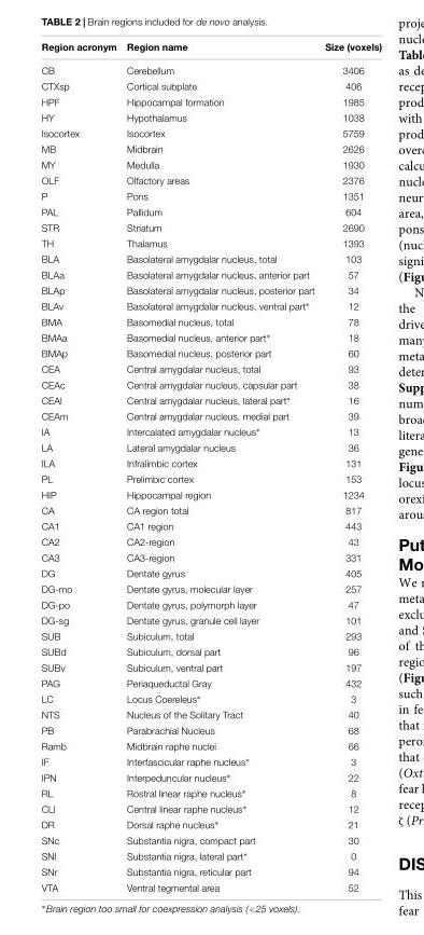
<table><thead><tr><td>Region acronym</td><td>Region name</td><td>Size (voxels)</td></tr></thead><tbody><tr><td>CB</td><td>Cerebellum</td><td>3406</td></tr><tr><td>CTXsp</td><td>Cortical subplate</td><td>406</td></tr><tr><td>HPF</td><td>Hippocampal formation</td><td>1985</td></tr><tr><td>HY</td><td>Hypothalamus</td><td>1038</td></tr><tr><td>Isocortex</td><td>Isocortex</td><td>5759</td></tr><tr><td>MB</td><td>Midbrain</td><td>2626</td></tr><tr><td>MY</td><td>Medulla</td><td>1930</td></tr><tr><td>OLF</td><td>Olfactory areas</td><td>2376</td></tr><tr><td>P</td><td>Pons</td><td>1351</td></tr><tr><td>PAL</td><td>Pallidum</td><td>604</td></tr><tr><td>STR</td><td>Striatum</td><td>2690</td></tr><tr><td>TH</td><td>Thalamus</td><td>1393</td></tr><tr><td>BLA</td><td>Basolateral amygdalar nucleus, total</td><td>103</td></tr><tr><td>BLAa</td><td>Basolateral amygdalar nucleus, anterior part</td><td>57</td></tr><tr><td>BLAp</td><td>Basolateral amygdalar nucleus, posterior part</td><td>34</td></tr><tr><td>BLAv</td><td>Basolateral amygdalar nucleus, ventral part∗</td><td>12</td></tr><tr><td>BMA</td><td>Basomedial nucleus, total</td><td>78</td></tr><tr><td>BMAa</td><td>Basomedial nucleus, anterior part∗</td><td>18</td></tr><tr><td>BMAp</td><td>Basomedial nucleus, posterior part</td><td>60</td></tr><tr><td>CEA</td><td>Central amygdalar nucleus, total</td><td>93</td></tr><tr><td>CEAc</td><td>Central amygdalar nucleus, capsular part</td><td>38</td></tr><tr><td>CEAl</td><td>Central amygdalar nucleus, lateral part∗</td><td>16</td></tr><tr><td>CEAm</td><td>Central amygdalar nucleus, medial part</td><td>39</td></tr><tr><td>IA</td><td>Intercalated amygdalar nucleus∗</td><td>13</td></tr><tr><td>LA</td><td>Lateral amygdalar nucleus</td><td>36</td></tr><tr><td>ILA</td><td>Infralimbic cortex</td><td>131</td></tr><tr><td>PL</td><td>Prelimbic cortex</td><td>153</td></tr><tr><td>HIP</td><td>Hippocampal region</td><td>1234</td></tr><tr><td>CA</td><td>CA region total</td><td>817</td></tr><tr><td>CA1</td><td>CA1 region</td><td>443</td></tr><tr><td>CA2</td><td>CA2-region</td><td>43</td></tr><tr><td>CA3</td><td>CA3-region</td><td>331</td></tr><tr><td>DG</td><td>Dentate gyrus</td><td>405</td></tr><tr><td>DG-mo</td><td>Dentate gyrus, molecular layer</td><td>257</td></tr><tr><td>DG-po</td><td>Dentate gyrus, polymorph layer</td><td>47</td></tr><tr><td>DG-sg</td><td>Dentate gyrus, granule cell layer</td><td>101</td></tr><tr><td>SUB</td><td>Subiculum, total</td><td>293</td></tr><tr><td>SUBd</td><td>Subiculum, dorsal part</td><td>96</td></tr><tr><td>SUBv</td><td>Subiculum, ventral part</td><td>197</td></tr><tr><td>PAG</td><td>Periaqueductal Gray</td><td>432</td></tr><tr><td>LC</td><td>Locus Coereleus∗</td><td>3</td></tr><tr><td>NTS</td><td>Nucleus of the Solitary Tract</td><td>40</td></tr><tr><td>PB</td><td>Parabrachial Nucleus</td><td>68</td></tr><tr><td>Ramb</td><td>Midbrain raphe nuclei</td><td>66</td></tr><tr><td>IF</td><td>Interfascicular raphe nucleus∗</td><td>3</td></tr><tr><td>IPN</td><td>Interpeduncular nucleus∗</td><td>22</td></tr><tr><td>RL</td><td>Rostral linear raphe nucleus∗</td><td>8</td></tr><tr><td>CLI</td><td>Central linear raphe nucleus∗</td><td>12</td></tr><tr><td>DR</td><td>Dorsal raphe nucleus∗</td><td>21</td></tr><tr><td>SNc</td><td>Substantia nigra, compact part</td><td>30</td></tr><tr><td>SNl</td><td>Substantia nigra, lateral part∗</td><td>0</td></tr><tr><td>SNr</td><td>Substantia nigra, reticular part</td><td>94</td></tr><tr><td>VTA</td><td>Ventral tegmental area</td><td>52</td></tr></tbody></table>